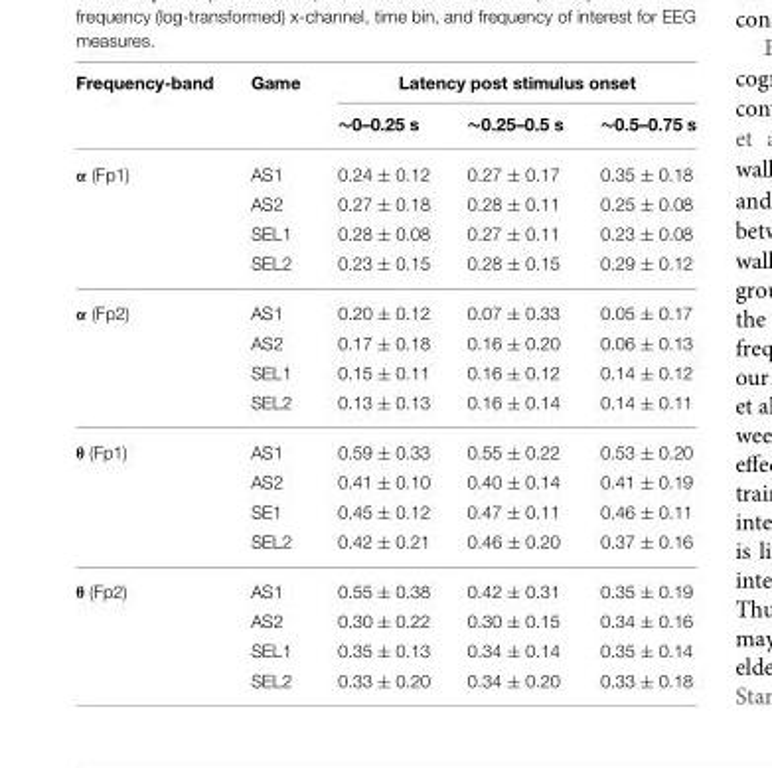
<table><thead><tr><td rowspan="2">Frequency-band</td><td rowspan="2">Game</td><td colspan="3">Latency post stimulus onset</td></tr><tr><td>∼0–0.25 s</td><td>∼0.25–0.5 s</td><td>∼0.5–0.75 s</td></tr></thead><tbody><tr><td rowspan="4">α (Fp1)</td><td>AS1</td><td>0.24 ± 0.12</td><td>0.27 ± 0.17</td><td>0.35 ± 0.18</td></tr><tr><td>AS2</td><td>0.27 ± 0.18</td><td>0.28 ± 0.11</td><td>0.25 ± 0.08</td></tr><tr><td>SEL1</td><td>0.28 ± 0.08</td><td>0.27 ± 0.11</td><td>0.23 ± 0.08</td></tr><tr><td>SEL2</td><td>0.23 ± 0.15</td><td>0.28 ± 0.15</td><td>0.29 ± 0.12</td></tr><tr><td rowspan="4">α (Fp2)</td><td>AS1</td><td>0.20 ± 0.12</td><td>0.07 ± 0.33</td><td>0.05 ± 0.17</td></tr><tr><td>AS2</td><td>0.17 ± 0.18</td><td>0.16 ± 0.20</td><td>0.06 ± 0.13</td></tr><tr><td>SEL1</td><td>0.15 ± 0.11</td><td>0.16 ± 0.12</td><td>0.14 ± 0.12</td></tr><tr><td>SEL2</td><td>0.13 ± 0.13</td><td>0.16 ± 0.14</td><td>0.14 ± 0.11</td></tr><tr><td rowspan="4">θ (Fp1)</td><td>AS1</td><td>0.59 ± 0.33</td><td>0.55 ± 0.22</td><td>0.53 ± 0.20</td></tr><tr><td>AS2</td><td>0.41 ± 0.10</td><td>0.40 ± 0.14</td><td>0.41 ± 0.19</td></tr><tr><td>SE1</td><td>0.45 ± 0.12</td><td>0.47 ± 0.11</td><td>0.46 ± 0.11</td></tr><tr><td>SEL2</td><td>0.42 ± 0.21</td><td>0.46 ± 0.20</td><td>0.37 ± 0.16</td></tr><tr><td rowspan="4">θ (Fp2)</td><td>AS1</td><td>0.55 ± 0.38</td><td>0.42 ± 0.31</td><td>0.35 ± 0.19</td></tr><tr><td>AS2</td><td>0.30 ± 0.22</td><td>0.30 ± 0.15</td><td>0.34 ± 0.16</td></tr><tr><td>SEL1</td><td>0.35 ± 0.13</td><td>0.34 ± 0.14</td><td>0.35 ± 0.14</td></tr><tr><td>SEL2</td><td>0.33 ± 0.20</td><td>0.34 ± 0.20</td><td>0.33 ± 0.18</td></tr></tbody></table>